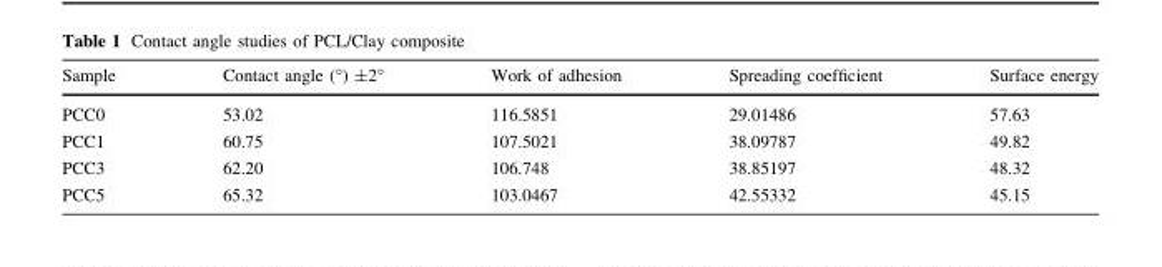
<table><thead><tr><td>Sample</td><td>Contact angle (°) ±2°</td><td>Work of adhesion</td><td>Spreading coefficient</td><td>Surface energy</td></tr></thead><tbody><tr><td>PCC0</td><td>53.02</td><td>116.5851</td><td>29.01486</td><td>57.63</td></tr><tr><td>PCC1</td><td>60.75</td><td>107.5021</td><td>38.09787</td><td>49.82</td></tr><tr><td>PCC3</td><td>62.20</td><td>106.748</td><td>38.85197</td><td>48.32</td></tr><tr><td>PCC5</td><td>65.32</td><td>103.0467</td><td>42.55332</td><td>45.15</td></tr></tbody></table>